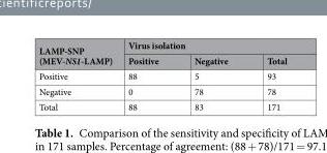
<table><thead><tr><td rowspan="2">LAMP-SNP (MEV-NS1-LAMP)</td><td colspan="3">Virus isolation</td></tr><tr><td>Positive</td><td>Negative</td><td>Total</td></tr></thead><tbody><tr><td>Positive</td><td>88</td><td>5</td><td>93</td></tr><tr><td>Negative</td><td>0</td><td>78</td><td>78</td></tr><tr><td>Total</td><td>88</td><td>83</td><td>171</td></tr></tbody></table>